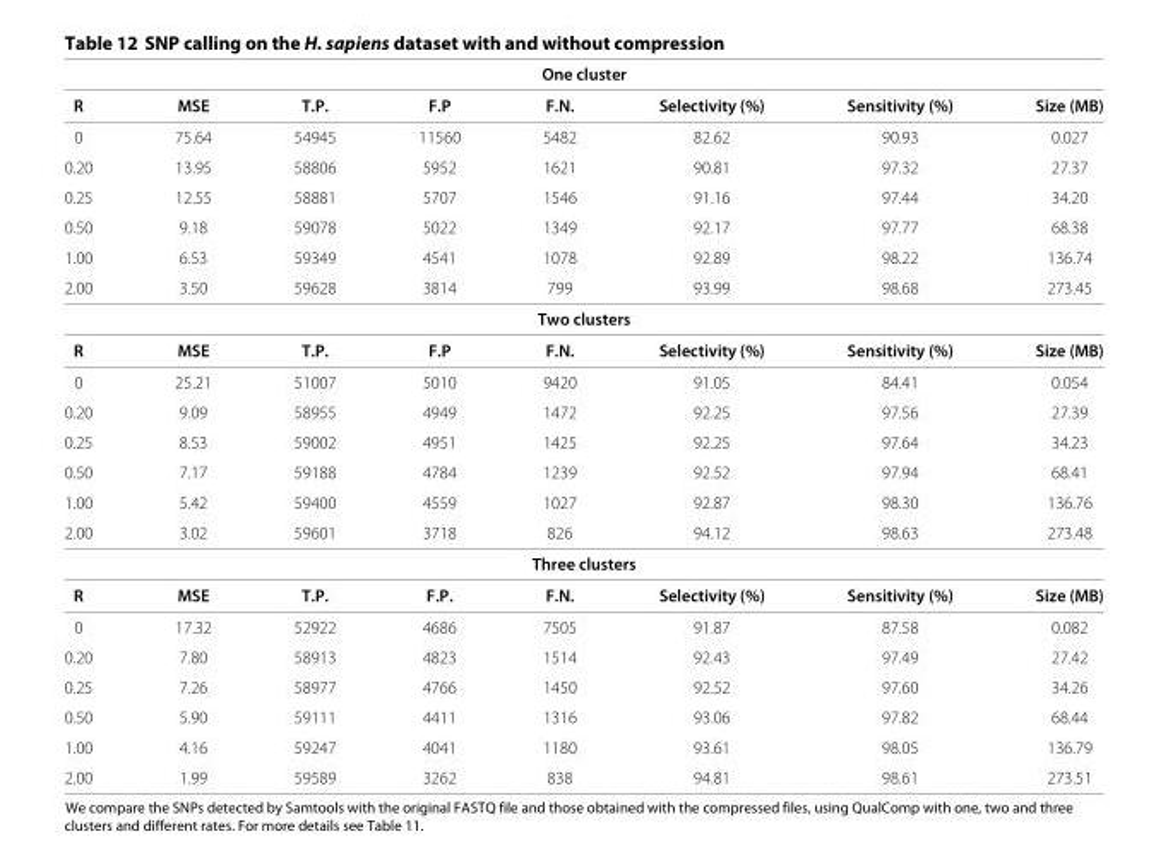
<table><thead><tr><td rowspan="2">R</td><td rowspan="2">MSE</td><td rowspan="2">T.P.</td><td rowspan="2">F.P</td><td rowspan="2">One cluster F.N.</td><td rowspan="2">Selectivity (%)</td><td rowspan="2">Sensitivity (%)</td><td rowspan="2">Size (MB)</td></tr><tr></tr></thead><tbody><tr><td>0</td><td>75.64</td><td>54945</td><td>11560</td><td>5482</td><td>82.62</td><td>90.93</td><td>0.027</td></tr><tr><td>0.20</td><td>13.95</td><td>58806</td><td>5952</td><td>1621</td><td>90.81</td><td>97.32</td><td>27.37</td></tr><tr><td>0.25</td><td>12.55</td><td>58881</td><td>5707</td><td>1546</td><td>91.16</td><td>97.44</td><td>34.20</td></tr><tr><td>0.50</td><td>9.18</td><td>59078</td><td>5022</td><td>1349</td><td>92.17</td><td>97.77</td><td>68.38</td></tr><tr><td>1.00</td><td>6.53</td><td>59349</td><td>4541</td><td>1078</td><td>92.89</td><td>98.22</td><td>136.74</td></tr><tr><td rowspan="2">2.00</td><td>3.50</td><td>59628</td><td>3814</td><td>799</td><td>93.99</td><td>98.68</td><td>273.45</td></tr><tr><td></td><td></td><td></td><td>Two clusters</td><td></td><td></td><td></td></tr><tr><td>R</td><td>MSE</td><td>T.P.</td><td>F.P</td><td>F.N.</td><td>Selectivity (%)</td><td>Sensitivity (%)</td><td>Size (MB)</td></tr><tr><td>0</td><td>25.21</td><td>51007</td><td>5010</td><td>9420</td><td>91.05</td><td>84.41</td><td>0.054</td></tr><tr><td>0.20</td><td>9.09</td><td>58955</td><td>4949</td><td>1472</td><td>92.25</td><td>97.56</td><td>27.39</td></tr><tr><td>0.25</td><td>8.53</td><td>59002</td><td>4951</td><td>1425</td><td>92.25</td><td>97.64</td><td>34.23</td></tr><tr><td>0.50</td><td>7.17</td><td>59188</td><td>4784</td><td>1239</td><td>92.52</td><td>97.94</td><td>68.41</td></tr><tr><td>1.00</td><td>5.42</td><td>59400</td><td>4559</td><td>1027</td><td>92.87</td><td>98.30</td><td>136.76</td></tr><tr><td rowspan="2">2.00</td><td>3.02</td><td>59601</td><td>3718</td><td>826</td><td>94.12</td><td>98.63</td><td>273.48</td></tr><tr><td></td><td></td><td></td><td>Three clusters</td><td></td><td></td><td></td></tr><tr><td>R</td><td>MSE</td><td>T.P.</td><td>F.P.</td><td>F.N.</td><td>Selectivity (%)</td><td>Sensitivity (%)</td><td>Size (MB)</td></tr><tr><td>0</td><td>17.32</td><td>52922</td><td>4686</td><td>7505</td><td>91.87</td><td>87.58</td><td>0.082</td></tr><tr><td>0.20</td><td>7.80</td><td>58913</td><td>4823</td><td>1514</td><td>92.43</td><td>97.49</td><td>27.42</td></tr><tr><td>0.25</td><td>7.26</td><td>58977</td><td>4766</td><td>1450</td><td>92.52</td><td>97.60</td><td>34.26</td></tr><tr><td>0.50</td><td>5.90</td><td>59111</td><td>4411</td><td>1316</td><td>93.06</td><td>97.82</td><td>68.44</td></tr><tr><td>1.00</td><td>4.16</td><td>59247</td><td>4041</td><td>1180</td><td>93.61</td><td>98.05</td><td>136.79</td></tr><tr><td>2.00</td><td>1.99</td><td>59589</td><td>3262</td><td>838</td><td>94.81</td><td>98.61</td><td>273.51</td></tr></tbody></table>